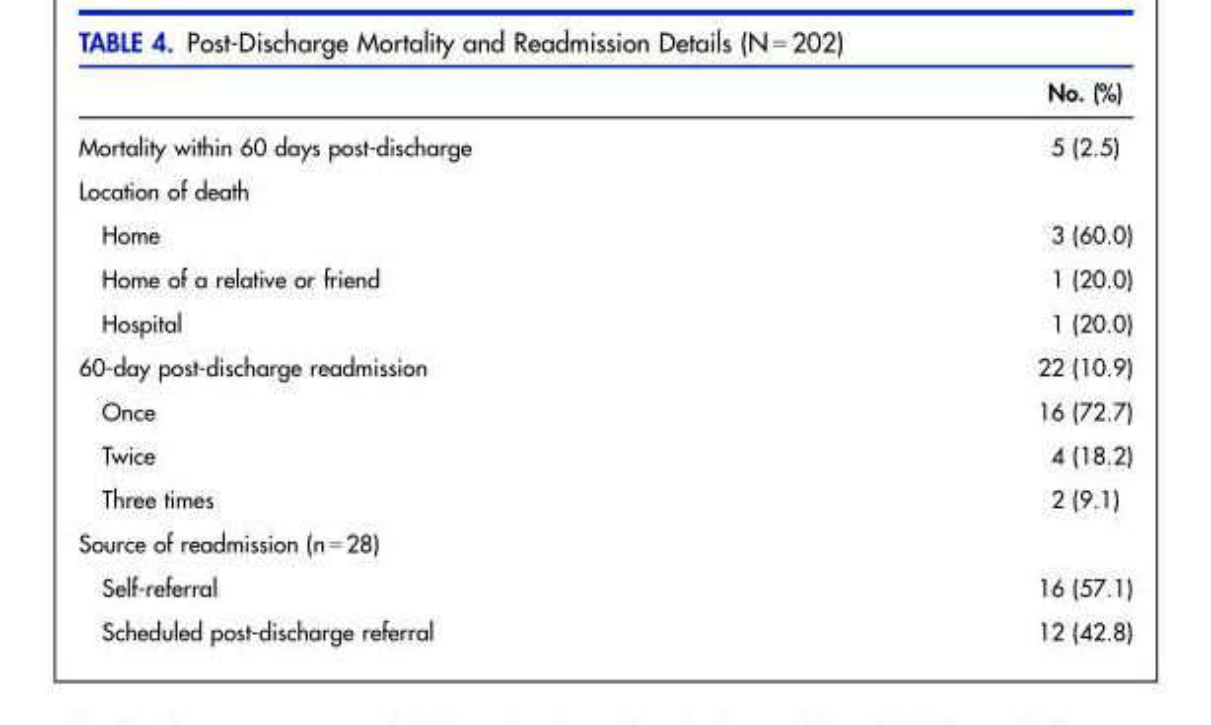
<table><thead><tr><td></td><td>No. (%)</td></tr></thead><tbody><tr><td>Mortality within 60 days post-discharge</td><td>5 (2.5)</td></tr><tr><td colspan="2">Location of death</td></tr><tr><td>Home</td><td>3 (60.0)</td></tr><tr><td>Home of a relative or friend</td><td>1 (20.0)</td></tr><tr><td>Hospital</td><td>1 (20.0)</td></tr><tr><td>60-day post-discharge readmission</td><td>22 (10.9)</td></tr><tr><td>Once</td><td>16 (72.7)</td></tr><tr><td>Twice</td><td>4 (18.2)</td></tr><tr><td>Three times</td><td>2 (9.1)</td></tr><tr><td colspan="2">Source of readmission (n = 28)</td></tr><tr><td>Self-referral</td><td>16 (57.1)</td></tr><tr><td>Scheduled post-discharge referral</td><td>12 (42.8)</td></tr></tbody></table>